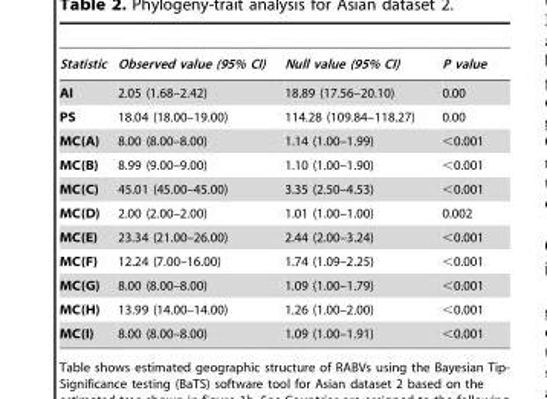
<table><thead><tr><td>Statistic</td><td>Observed value (95% CI)</td><td>Null value (95% CI)</td><td>P value</td></tr></thead><tbody><tr><td>AI</td><td>2.05 (1.68–2.42)</td><td>18.89 (17.56–20.10)</td><td>0.00</td></tr><tr><td>PS</td><td>18.04 (18.00–19.00)</td><td>114.28 (109.84–118.27)</td><td>0.00</td></tr><tr><td>MC(A)</td><td>8.00 (8.00–8.00)</td><td>1.14 (1.00–1.99)</td><td>&lt;0.001</td></tr><tr><td>MC(B)</td><td>8.99 (9.00–9.00)</td><td>1.10 (1.00–1.90)</td><td>&lt;0.001</td></tr><tr><td>MC(C)</td><td>45.01 (45.00–45.00)</td><td>3.35 (2.50–4.53)</td><td>&lt;0.001</td></tr><tr><td>MC(D)</td><td>2.00 (2.00–2.00)</td><td>1.01 (1.00–1.00)</td><td>0.002</td></tr><tr><td>MC(E)</td><td>23.34 (21.00–26.00)</td><td>2.44 (2.00–3.24)</td><td>&lt;0.001</td></tr><tr><td>MC(F)</td><td>12.24 (7.00–16.00)</td><td>1.74 (1.09–2.25)</td><td>&lt;0.001</td></tr><tr><td>MC(G)</td><td>8.00 (8.00–8.00)</td><td>1.09 (1.00–1.79)</td><td>&lt;0.001</td></tr><tr><td>MC(H)</td><td>13.99 (14.00–14.00)</td><td>1.26 (1.00–2.00)</td><td>&lt;0.001</td></tr><tr><td>MC(I)</td><td>8.00 (8.00–8.00)</td><td>1.09 (1.00–1.91)</td><td>&lt;0.001</td></tr></tbody></table>